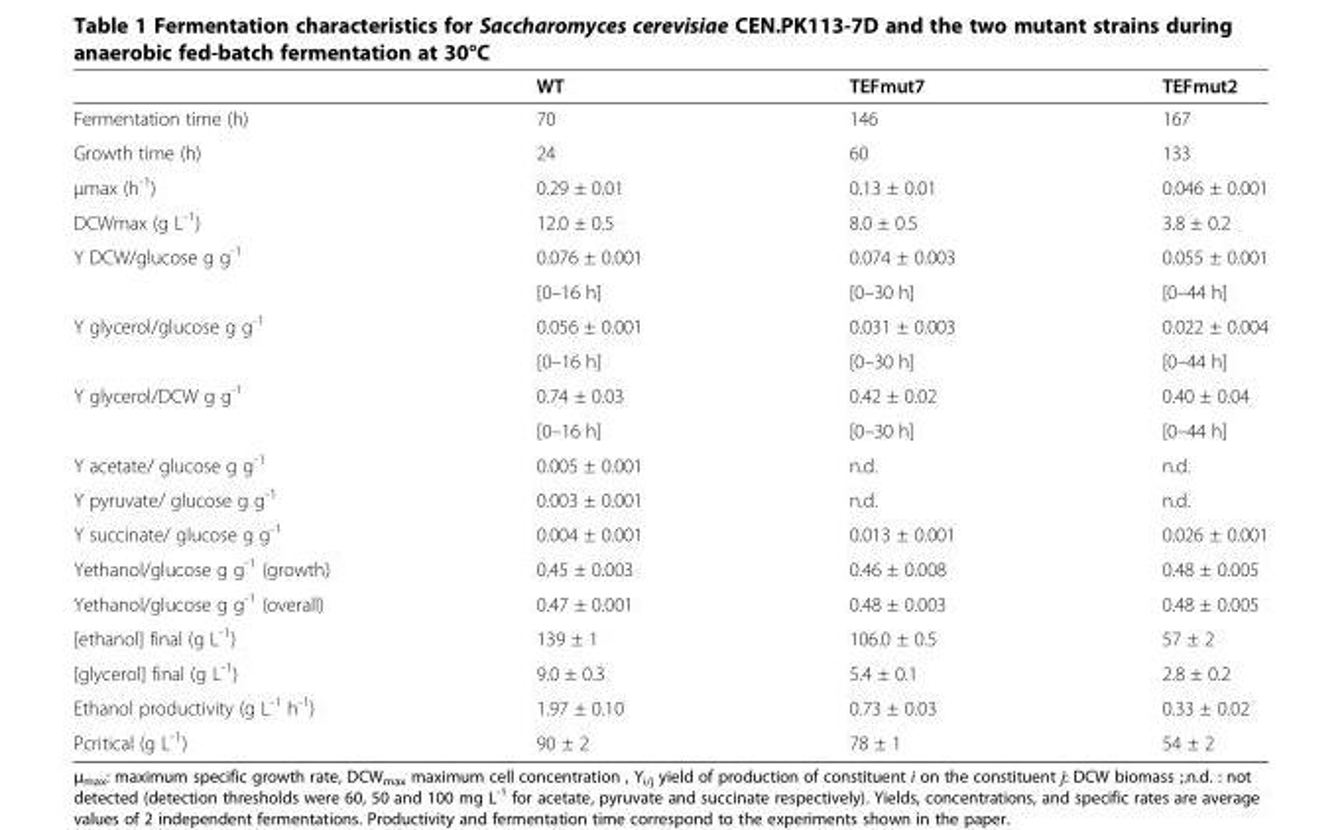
<table><thead><tr><td></td><td>WT</td><td>TEFmut7</td><td>TEFmut2</td></tr></thead><tbody><tr><td>Fermentation time (h)</td><td>70</td><td>146</td><td>167</td></tr><tr><td>Growth time (h)</td><td>24</td><td>60</td><td>133</td></tr><tr><td>μmax (h<sup>-1</sup>)</td><td>0.29 ± 0.01</td><td>0.13 ± 0.01</td><td>0.046 ± 0.001</td></tr><tr><td>DCWmax (g L<sup>-1</sup>)</td><td>12.0 ± 0.5</td><td>8.0 ± 0.5</td><td>3.8 ± 0.2</td></tr><tr><td rowspan="2">Y DCW/glucose g g<sup>-1</sup></td><td>0.076 ± 0.001</td><td>0.074 ± 0.003</td><td>0.055 ± 0.001</td></tr><tr><td>[0–16 h]</td><td>[0–30 h]</td><td>[0–44 h]</td></tr><tr><td rowspan="2">Y glycerol/glucose g g<sup>-1</sup></td><td>0.056 ± 0.001</td><td>0.031 ± 0.003</td><td>0.022 ± 0.004</td></tr><tr><td>[0–16 h]</td><td>[0–30 h]</td><td>[0–44 h]</td></tr><tr><td rowspan="2">Y glycerol/DCW g g<sup>-1</sup></td><td>0.74 ± 0.03</td><td>0.42 ± 0.02</td><td>0.40 ± 0.04</td></tr><tr><td>[0–16 h]</td><td>[0–30 h]</td><td>[0–44 h]</td></tr><tr><td>Y acetate/ glucose g g<sup>-1</sup></td><td>0.005 ± 0.001</td><td>n.d.</td><td>n.d.</td></tr><tr><td>Y pyruvate/ glucose g g<sup>-1</sup></td><td>0.003 ± 0.001</td><td>n.d.</td><td>n.d.</td></tr><tr><td>Y succinate/ glucose g g<sup>-1</sup></td><td>0.004 ± 0.001</td><td>0.013 ± 0.001</td><td>0.026 ± 0.001</td></tr><tr><td>Yethanol/glucose g g<sup>-1</sup> (growth)</td><td>0.45 ± 0.003</td><td>0.46 ± 0.008</td><td>0.48 ± 0.005</td></tr><tr><td>Yethanol/glucose g g<sup>-1</sup> (overall)</td><td>0.47 ± 0.001</td><td>0.48 ± 0.003</td><td>0.48 ± 0.005</td></tr><tr><td>[ethanol] final (g L<sup>-1</sup>)</td><td>139 ± 1</td><td>106.0 ± 0.5</td><td>57 ± 2</td></tr><tr><td>[glycerol] final (g L<sup>-1</sup>)</td><td>9.0 ± 0.3</td><td>5.4 ± 0.1</td><td>2.8 ± 0.2</td></tr><tr><td>Ethanol productivity (g L<sup>-1</sup> h<sup>-1</sup>)</td><td>1.97 ± 0.10</td><td>0.73 ± 0.03</td><td>0.33 ± 0.02</td></tr><tr><td>Pcritical (g L<sup>-1</sup>)</td><td>90 ± 2</td><td>78 ± 1</td><td>54 ± 2</td></tr></tbody></table>